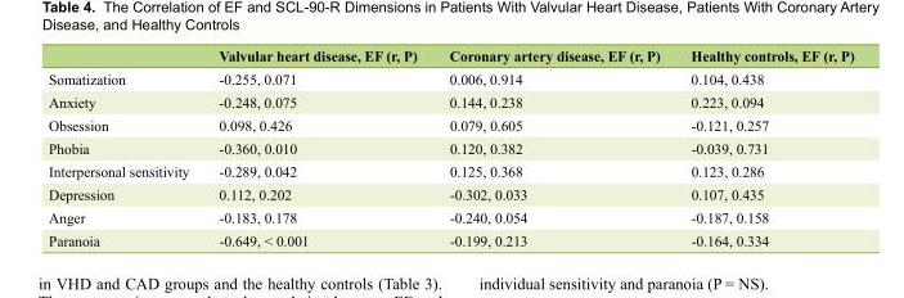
<table><thead><tr><td></td><td>Valvular heart disease, EF (r, P)</td><td>Coronary artery disease, EF (r, P)</td><td>Healthy controls, EF (r, P)</td></tr></thead><tbody><tr><td>Somatization</td><td>-0.255, 0.071</td><td>0.006, 0.914</td><td>0.104, 0.438</td></tr><tr><td>Anxiety</td><td>-0.248, 0.075</td><td>0.144, 0.238</td><td>0.223, 0.094</td></tr><tr><td>Obsession</td><td>0.098, 0.426</td><td>0.079, 0.605</td><td>-0.121, 0.257</td></tr><tr><td>Phobia</td><td>-0.360, 0.010</td><td>0.120, 0.382</td><td>-0.039, 0.731</td></tr><tr><td>Interpersonal sensitivity</td><td>-0.289, 0.042</td><td>0.125, 0.368</td><td>0.123, 0.286</td></tr><tr><td>Depression</td><td>0.112, 0.202</td><td>-0.302, 0.033</td><td>0.107, 0.435</td></tr><tr><td>Anger</td><td>-0.183, 0.178</td><td>-0.240, 0.054</td><td>-0.187, 0.158</td></tr><tr><td>Paranoia</td><td>-0.649, &lt; 0.001</td><td>-0.199, 0.213</td><td>-0.164, 0.334</td></tr></tbody></table>